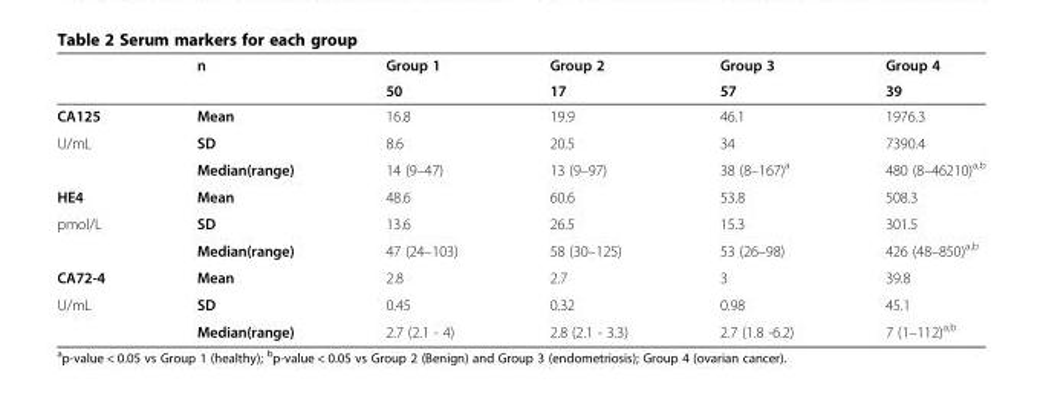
<table><thead><tr><td rowspan="2"></td><td rowspan="2">n</td><td rowspan="2">Group 1 50</td><td rowspan="2">Group 2 17</td><td rowspan="2">Group 3 57</td><td rowspan="2">Group 4 39</td></tr><tr></tr></thead><tbody><tr><td>CA125</td><td>Mean</td><td>16.8</td><td>19.9</td><td>46.1</td><td>1976.3</td></tr><tr><td rowspan="2">U/mL</td><td>SD</td><td>8.6</td><td>20.5</td><td>34</td><td>7390.4</td></tr><tr><td>Median(range)</td><td>14 (9–47)</td><td>13 (9–97)</td><td>38 (8–167)<sup>a</sup></td><td>480 (8–46210)<sup>a,b</sup></td></tr><tr><td>HE4</td><td>Mean</td><td>48.6</td><td>60.6</td><td>53.8</td><td>508.3</td></tr><tr><td rowspan="2">pmol/L</td><td>SD</td><td>13.6</td><td>26.5</td><td>15.3</td><td>301.5</td></tr><tr><td>Median(range)</td><td>47 (24–103)</td><td>58 (30–125)</td><td>53 (26–98)</td><td>426 (48–850)<sup>a,b</sup></td></tr><tr><td>CA72-4</td><td>Mean</td><td>2.8</td><td>2.7</td><td>3</td><td>39.8</td></tr><tr><td rowspan="2">U/mL</td><td>SD</td><td>0.45</td><td>0.32</td><td>0.98</td><td>45.1</td></tr><tr><td>Median(range)</td><td>2.7 (2.1 - 4)</td><td>2.8 (2.1 - 3.3)</td><td>2.7 (1.8 -6.2)</td><td>7 (1–112)<sup>a,b</sup></td></tr></tbody></table>